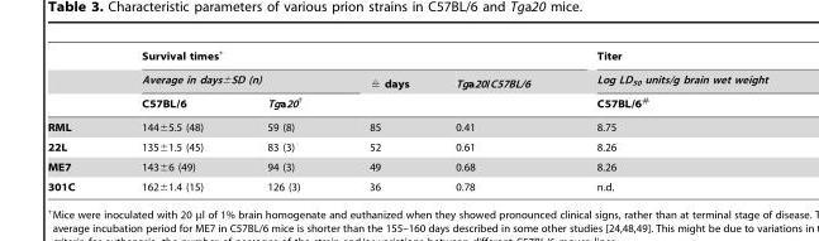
<table><thead><tr><td rowspan="3"></td><td colspan="4">Survival times+</td><td rowspan="3">Titer Log LD<sub>50</sub> units/g brain wet weight C57BL/6#</td></tr><tr><td colspan="2">Average in days±SD (n)</td><td rowspan="2">≜ days</td><td rowspan="2">Tga20/C57BL/6</td></tr><tr><td>C57BL/6</td><td>Tga20†</td></tr></thead><tbody><tr><td>RML</td><td>144±5.5 (48)</td><td>59 (8)</td><td>85</td><td>0.41</td><td>8.75</td></tr><tr><td>22L</td><td>135±1.5 (45)</td><td>83 (3)</td><td>52</td><td>0.61</td><td>8.26</td></tr><tr><td>ME7</td><td>143±6 (49)</td><td>94 (3)</td><td>49</td><td>0.68</td><td>8.26</td></tr><tr><td>301C</td><td>162±1.4 (15)</td><td>126 (3)</td><td>36</td><td>0.78</td><td>n.d.</td></tr></tbody></table>